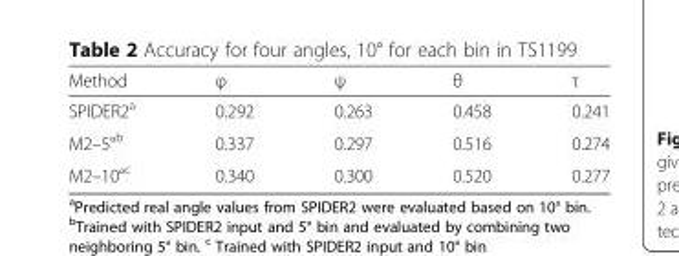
<table><thead><tr><td>Method</td><td>φ</td><td>ψ</td><td>θ</td><td>τ</td></tr></thead><tbody><tr><td>SPIDER2<sup>a</sup></td><td>0.292</td><td>0.263</td><td>0.458</td><td>0.241</td></tr><tr><td>M2–5°<sup>b</sup></td><td>0.337</td><td>0.297</td><td>0.516</td><td>0.274</td></tr><tr><td>M2–10°<sup>c</sup></td><td>0.340</td><td>0.300</td><td>0.520</td><td>0.277</td></tr></tbody></table>